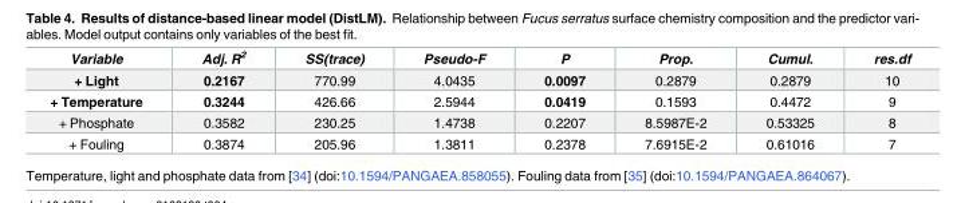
<table><thead><tr><td>Variable</td><td>Adj. R<sup>2</sup></td><td>SS(trace)</td><td>Pseudo-F</td><td>P</td><td>Prop.</td><td>Cumul.</td><td>res.df</td></tr></thead><tbody><tr><td>+ Light</td><td>0.2167</td><td>770.99</td><td>4.0435</td><td>0.0097</td><td>0.2879</td><td>0.2879</td><td>10</td></tr><tr><td>+ Temperature</td><td>0.3244</td><td>426.66</td><td>2.5944</td><td>0.0419</td><td>0.1593</td><td>0.4472</td><td>9</td></tr><tr><td>+ Phosphate</td><td>0.3582</td><td>230.25</td><td>1.4738</td><td>0.2207</td><td>8.5987E-2</td><td>0.53325</td><td>8</td></tr><tr><td>+ Fouling</td><td>0.3874</td><td>205.96</td><td>1.3811</td><td>0.2378</td><td>7.6915E-2</td><td>0.61016</td><td>7</td></tr></tbody></table>